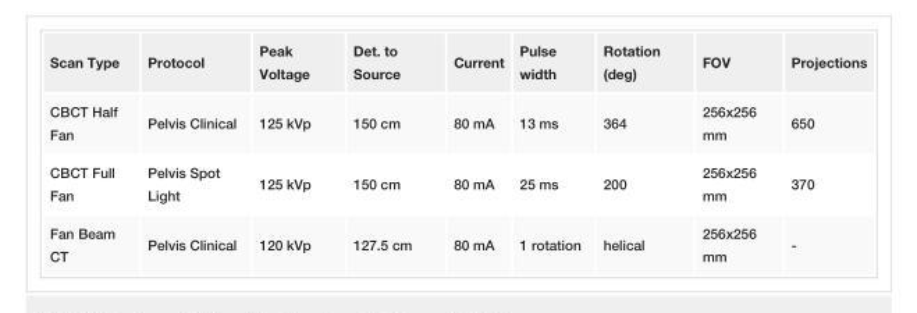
<table><tbody><tr><td>Scan Type</td><td>Protocol</td><td>Peak Voltage</td><td>Det. to Source</td><td>Current</td><td>Pulse width</td><td>Rotation (deg)</td><td>FOV</td><td>Projections</td></tr><tr><td>CBCT Half Fan</td><td>Pelvis Clinical</td><td>125 kVp</td><td>150 cm</td><td>80 mA</td><td>13 ms</td><td>364</td><td>256x256 mm</td><td>650</td></tr><tr><td>CBCT Full Fan</td><td>Pelvis Spot Light</td><td>125 kVp</td><td>150 cm</td><td>80 mA</td><td>25 ms</td><td>200</td><td>256x256 mm</td><td>370</td></tr><tr><td>Fan Beam CT</td><td>Pelvis Clinical</td><td>120 kVp</td><td>127.5 cm</td><td>80 mA</td><td>1 rotation</td><td>helical</td><td>256x256 mm</td><td>-</td></tr></tbody></table>